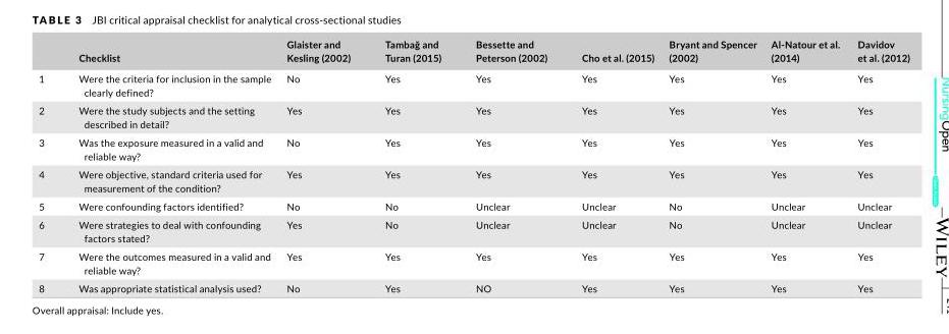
<table><thead><tr><td></td><td>Checklist</td><td>Glaister and Kesling (2002)</td><td>Tambağ and Turan (2015)</td><td>Bessette and Peterson (2002)</td><td>Cho et al. (2015)</td><td>Bryant and Spencer (2002)</td><td>Al- Natour et al. (2014)</td><td>Davidov et al. (2012)</td></tr></thead><tbody><tr><td>1</td><td>Were the criteria for inclusion in the sample clearly defined?</td><td>No</td><td>Yes</td><td>Yes</td><td>Yes</td><td>Yes</td><td>Yes</td><td>Yes</td></tr><tr><td>2</td><td>Were the study subjects and the setting described in detail?</td><td>Yes</td><td>Yes</td><td>Yes</td><td>Yes</td><td>Yes</td><td>Yes</td><td>Yes</td></tr><tr><td>3</td><td>Was the exposure measured in a valid and reliable way?</td><td>No</td><td>Yes</td><td>Yes</td><td>Yes</td><td>Yes</td><td>Yes</td><td>Yes</td></tr><tr><td>4</td><td>Were objective, standard criteria used for measurement of the condition?</td><td>Yes</td><td>Yes</td><td>Yes</td><td>Yes</td><td>Yes</td><td>Yes</td><td>Yes</td></tr><tr><td>5</td><td>Were confounding factors identified?</td><td>No</td><td>No</td><td>Unclear</td><td>Unclear</td><td>No</td><td>Unclear</td><td>Unclear</td></tr><tr><td>6</td><td>Were strategies to deal with confounding factors stated?</td><td>Yes</td><td>No</td><td>Unclear</td><td>Unclear</td><td>No</td><td>Unclear</td><td>Unclear</td></tr><tr><td>7</td><td>Were the outcomes measured in a valid and reliable way?</td><td>Yes</td><td>Yes</td><td>Yes</td><td>Yes</td><td>Yes</td><td>Yes</td><td>Yes</td></tr><tr><td>8</td><td>Was appropriate statistical analysis used?</td><td>No</td><td>Yes</td><td>NO</td><td>Yes</td><td>Yes</td><td>Yes</td><td>Yes</td></tr></tbody></table>